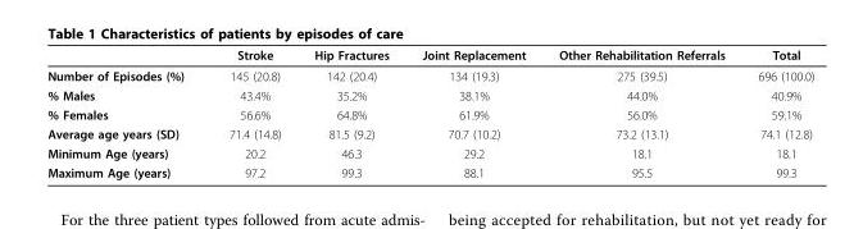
<table><thead><tr><td></td><td>Stroke</td><td>Hip Fractures</td><td>Joint Replacement</td><td>Other Rehabilitation Referrals</td><td>Total</td></tr></thead><tbody><tr><td>Number of Episodes (%)</td><td>145 (20.8)</td><td>142 (20.4)</td><td>134 (19.3)</td><td>275 (39.5)</td><td>696 (100.0)</td></tr><tr><td>% Males</td><td>43.4%</td><td>35.2%</td><td>38.1%</td><td>44.0%</td><td>40.9%</td></tr><tr><td>% Females</td><td>56.6%</td><td>64.8%</td><td>61.9%</td><td>56.0%</td><td>59.1%</td></tr><tr><td>Average age years (SD)</td><td>71.4 (14.8)</td><td>81.5 (9.2)</td><td>70.7 (10.2)</td><td>73.2 (13.1)</td><td>74.1 (12.8)</td></tr><tr><td>Minimum Age (years)</td><td>20.2</td><td>46.3</td><td>29.2</td><td>18.1</td><td>18.1</td></tr><tr><td>Maximum Age (years)</td><td>97.2</td><td>99.3</td><td>88.1</td><td>95.5</td><td>99.3</td></tr></tbody></table>